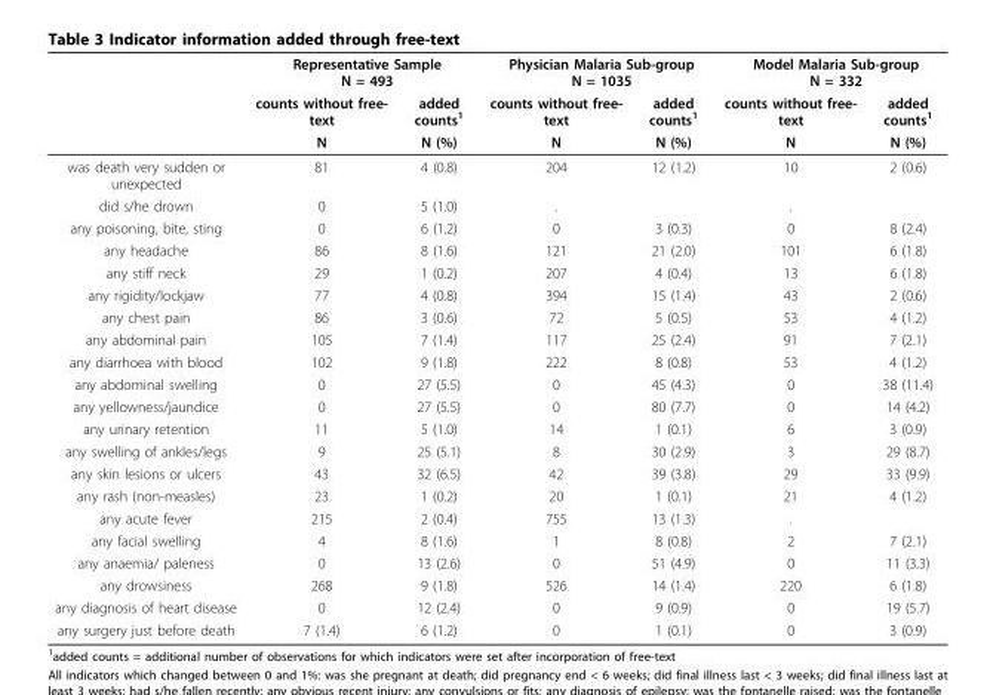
<table><thead><tr><td rowspan="3"></td><td colspan="2">Representative Sample N = 493</td><td colspan="2">Physician Malaria Sub-group N = 1035</td><td colspan="2">Model Malaria Sub-group N = 332</td></tr><tr><td rowspan="2">counts without free- text N</td><td rowspan="2">added counts<sup>1</sup> N (%)</td><td rowspan="2">counts without free- text N</td><td rowspan="2">added counts<sup>1</sup> N (%)</td><td rowspan="2">counts without free- text N</td><td rowspan="2">added counts<sup>1</sup> N (%)</td></tr><tr></tr></thead><tbody><tr><td>was death very sudden or unexpected</td><td>81</td><td>4 (0.8)</td><td>204</td><td>12 (1.2)</td><td>10</td><td>2 (0.6)</td></tr><tr><td>did s/he drown</td><td>0</td><td>5 (1.0)</td><td>.</td><td></td><td>.</td><td></td></tr><tr><td>any poisoning, bite, sting</td><td>0</td><td>6 (1.2)</td><td>0</td><td>3 (0.3)</td><td>0</td><td>8 (2.4)</td></tr><tr><td>any headache</td><td>86</td><td>8 (1.6)</td><td>121</td><td>21 (2.0)</td><td>101</td><td>6 (1.8)</td></tr><tr><td>any stiff neck</td><td>29</td><td>1 (0.2)</td><td>207</td><td>4 (0.4)</td><td>13</td><td>6 (1.8)</td></tr><tr><td>any rigidity/lockjaw</td><td>77</td><td>4 (0.8)</td><td>394</td><td>15 (1.4)</td><td>43</td><td>2 (0.6)</td></tr><tr><td>any chest pain</td><td>86</td><td>3 (0.6)</td><td>72</td><td>5 (0.5)</td><td>53</td><td>4 (1.2)</td></tr><tr><td>any abdominal pain</td><td>105</td><td>7 (1.4)</td><td>117</td><td>25 (2.4)</td><td>91</td><td>7 (2.1)</td></tr><tr><td>any diarrhoea with blood</td><td>102</td><td>9 (1.8)</td><td>222</td><td>8 (0.8)</td><td>53</td><td>4 (1.2)</td></tr><tr><td>any abdominal swelling</td><td>0</td><td>27 (5.5)</td><td>0</td><td>45 (4.3)</td><td>0</td><td>38 (11.4)</td></tr><tr><td>any yellowness/jaundice</td><td>0</td><td>27 (5.5)</td><td>0</td><td>80 (7.7)</td><td>0</td><td>14 (4.2)</td></tr><tr><td>any urinary retention</td><td>11</td><td>5 (1.0)</td><td>14</td><td>1 (0.1)</td><td>6</td><td>3 (0.9)</td></tr><tr><td>any swelling of ankles/legs</td><td>9</td><td>25 (5.1)</td><td>8</td><td>30 (2.9)</td><td>3</td><td>29 (8.7)</td></tr><tr><td>any skin lesions or ulcers</td><td>43</td><td>32 (6.5)</td><td>42</td><td>39 (3.8)</td><td>29</td><td>33 (9.9)</td></tr><tr><td>any rash (non-measles)</td><td>23</td><td>1 (0.2)</td><td>20</td><td>1 (0.1)</td><td>21</td><td>4 (1.2)</td></tr><tr><td>any acute fever</td><td>215</td><td>2 (0.4)</td><td>755</td><td>13 (1.3)</td><td>.</td><td></td></tr><tr><td>any facial swelling</td><td>4</td><td>8 (1.6)</td><td>1</td><td>8 (0.8)</td><td>2</td><td>7 (2.1)</td></tr><tr><td>any anaemia/ paleness</td><td>0</td><td>13 (2.6)</td><td>0</td><td>51 (4.9)</td><td>0</td><td>11 (3.3)</td></tr><tr><td>any drowsiness</td><td>268</td><td>9 (1.8)</td><td>526</td><td>14 (1.4)</td><td>220</td><td>6 (1.8)</td></tr><tr><td>any diagnosis of heart disease</td><td>0</td><td>12 (2.4)</td><td>0</td><td>9 (0.9)</td><td>0</td><td>19 (5.7)</td></tr><tr><td>any surgery just before death</td><td>7 (1.4)</td><td>6 (1.2)</td><td>0</td><td>1 (0.1)</td><td>0</td><td>3 (0.9)</td></tr></tbody></table>